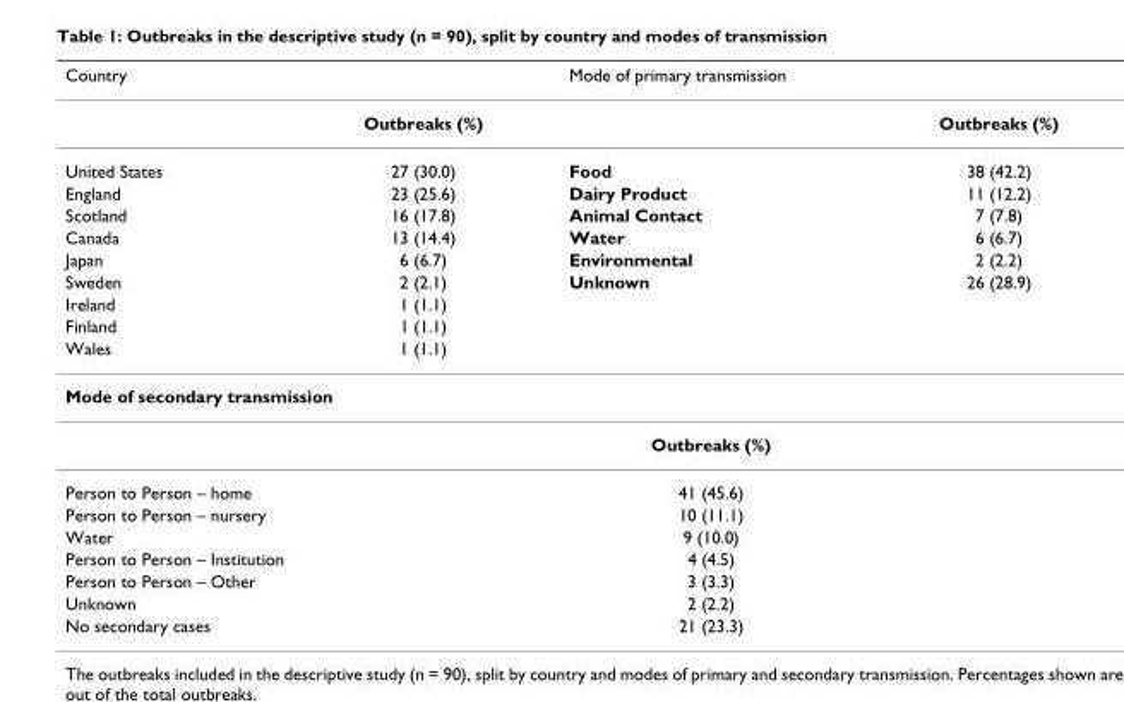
<table><thead><tr><td rowspan="2">Country</td><td rowspan="2">Outbreaks (%)</td><td colspan="2">Mode of primary transmission</td></tr><tr><td></td><td>Outbreaks (%)</td></tr></thead><tbody><tr><td>United States</td><td>27 (30.0)</td><td>Food</td><td>38 (42.2)</td></tr><tr><td>England</td><td>23 (25.6)</td><td>Dairy Product</td><td>11 (12.2)</td></tr><tr><td>Scotland</td><td>16 (17.8)</td><td>Animal Contact</td><td>7 (7.8)</td></tr><tr><td>Canada</td><td>13 (14.4)</td><td>Water</td><td>6 (6.7)</td></tr><tr><td>Japan</td><td>6 (6.7)</td><td>Environmental</td><td>2 (2.2)</td></tr><tr><td>Sweden</td><td>2 (2.1)</td><td>Unknown</td><td>26 (28.9)</td></tr><tr><td>Ireland</td><td>1 (1.1)</td><td></td><td></td></tr><tr><td>Finland</td><td>1 (1.1)</td><td></td><td></td></tr><tr><td>Wales</td><td>1 (1.1)</td><td></td><td></td></tr><tr><td colspan="4">Mode of secondary transmission</td></tr><tr><td></td><td></td><td>Outbreaks (%)</td><td></td></tr><tr><td colspan="2">Person to Person – home</td><td>41 (45.6)</td><td></td></tr><tr><td colspan="2">Person to Person – nursery</td><td>10 (11.1)</td><td></td></tr><tr><td colspan="2">Water</td><td>9 (10.0)</td><td></td></tr><tr><td colspan="2">Person to Person – Institution</td><td>4 (4.5)</td><td></td></tr><tr><td colspan="2">Person to Person – Other</td><td>3 (3.3)</td><td></td></tr><tr><td colspan="2">Unknown</td><td>2 (2.2)</td><td></td></tr><tr><td colspan="2">No secondary cases</td><td>21 (23.3)</td><td></td></tr></tbody></table>